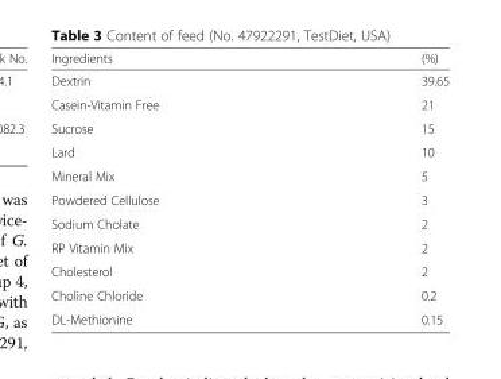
<table><thead><tr><td>Ingredients</td><td>(%)</td></tr></thead><tbody><tr><td>Dextrin</td><td>39.65</td></tr><tr><td>Casein-Vitamin Free</td><td>21</td></tr><tr><td>Sucrose</td><td>15</td></tr><tr><td>Lard</td><td>10</td></tr><tr><td>Mineral Mix</td><td>5</td></tr><tr><td>Powdered Cellulose</td><td>3</td></tr><tr><td>Sodium Cholate</td><td>2</td></tr><tr><td>RP Vitamin Mix</td><td>2</td></tr><tr><td>Cholesterol</td><td>2</td></tr><tr><td>Choline Chloride</td><td>0.2</td></tr><tr><td>DL-Methionine</td><td>0.15</td></tr></tbody></table>